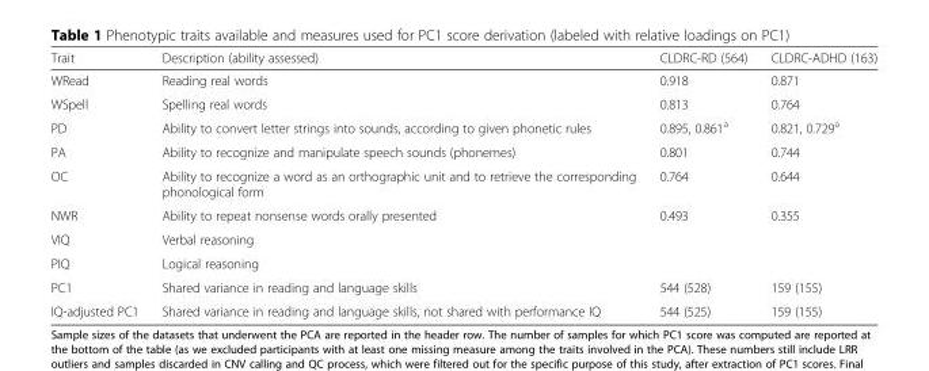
<table><thead><tr><td>Trait</td><td>Description (ability assessed)</td><td>CLDRC-RD (564)</td><td>CLDRC-ADHD (163)</td></tr></thead><tbody><tr><td>WRead</td><td>Reading real words</td><td>0.918</td><td>0.871</td></tr><tr><td>WSpell</td><td>Spelling real words</td><td>0.813</td><td>0.764</td></tr><tr><td>PD</td><td>Ability to convert letter strings into sounds, according to given phonetic rules</td><td>0.895, 0.861<sup>a</sup></td><td>0.821, 0.729<sup>a</sup></td></tr><tr><td>PA</td><td>Ability to recognize and manipulate speech sounds (phonemes)</td><td>0.801</td><td>0.744</td></tr><tr><td>OC</td><td>Ability to recognize a word as an orthographic unit and to retrieve the corresponding phonological form</td><td>0.764</td><td>0.644</td></tr><tr><td>NWR</td><td>Ability to repeat nonsense words orally presented</td><td>0.493</td><td>0.355</td></tr><tr><td>VIQ</td><td>Verbal reasoning</td><td></td><td></td></tr><tr><td>PIQ</td><td>Logical reasoning</td><td></td><td></td></tr><tr><td>PC1</td><td>Shared variance in reading and language skills</td><td>544 (528)</td><td>159 (155)</td></tr><tr><td>IQ-adjusted PC1</td><td>Shared variance in reading and language skills, not shared with performance IQ</td><td>544 (525)</td><td>159 (155)</td></tr></tbody></table>